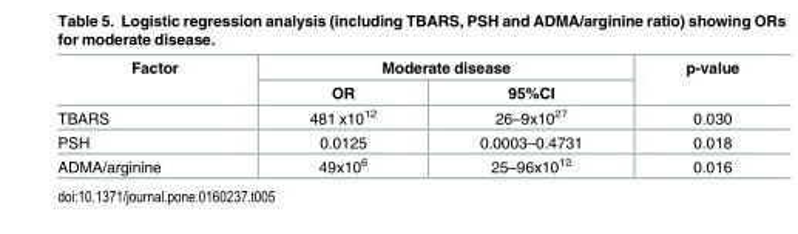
<table><thead><tr><td rowspan="2">Factor</td><td colspan="2">Moderate disease</td><td rowspan="2">p-value</td></tr><tr><td>OR</td><td>95%CI</td></tr></thead><tbody><tr><td>TBARS</td><td>481 x10<sup>12</sup></td><td>26–9x10<sup>27</sup></td><td>0.030</td></tr><tr><td>PSH</td><td>0.0125</td><td>0.0003–0.4731</td><td>0.018</td></tr><tr><td>ADMA/arginine</td><td>49x10<sup>6</sup></td><td>25–96x10<sup>12</sup></td><td>0.016</td></tr></tbody></table>